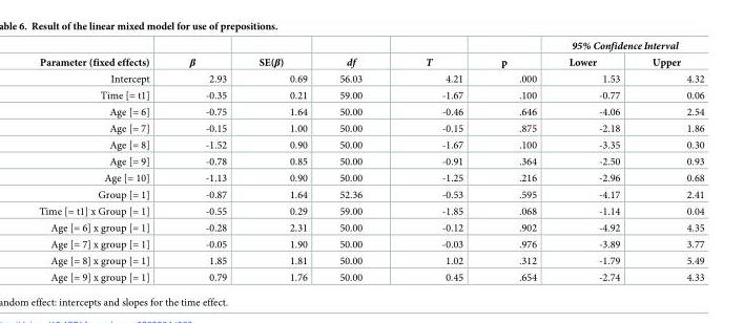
<table><thead><tr><td rowspan="2">Parameter (fixed effects)</td><td rowspan="2">β</td><td rowspan="2">SE(β)</td><td rowspan="2">df</td><td rowspan="2">T</td><td rowspan="2">p</td><td colspan="2">95% Confidence Interval</td></tr><tr><td>Lower</td><td>Upper</td></tr></thead><tbody><tr><td>Intercept</td><td>2.93</td><td>0.69</td><td>56.03</td><td>4.21</td><td>.000</td><td>1.53</td><td>4.32</td></tr><tr><td>Time [= t1]</td><td>-0.35</td><td>0.21</td><td>59.00</td><td>-1.67</td><td>.100</td><td>-0.77</td><td>0.06</td></tr><tr><td>Age [= 6]</td><td>-0.75</td><td>1.64</td><td>50.00</td><td>-0.46</td><td>.646</td><td>-4.06</td><td>2.54</td></tr><tr><td>Age [= 7]</td><td>-0.15</td><td>1.00</td><td>50.00</td><td>-0.15</td><td>.875</td><td>-2.18</td><td>1.86</td></tr><tr><td>Age [= 8]</td><td>-1.52</td><td>0.90</td><td>50.00</td><td>-1.67</td><td>.100</td><td>-3.35</td><td>0.30</td></tr><tr><td>Age [= 9]</td><td>-0.78</td><td>0.85</td><td>50.00</td><td>-0.91</td><td>.364</td><td>-2.50</td><td>0.93</td></tr><tr><td>Age [= 10]</td><td>-1.13</td><td>0.90</td><td>50.00</td><td>-1.25</td><td>.216</td><td>-2.96</td><td>0.68</td></tr><tr><td>Group [= 1]</td><td>-0.87</td><td>1.64</td><td>52.36</td><td>-0.53</td><td>.595</td><td>-4.17</td><td>2.41</td></tr><tr><td>Time [= t1] x Group [= 1]</td><td>-0.55</td><td>0.29</td><td>59.00</td><td>-1.85</td><td>.068</td><td>-1.14</td><td>0.04</td></tr><tr><td>Age [= 6] x group [= 1]</td><td>-0.28</td><td>2.31</td><td>50.00</td><td>-0.12</td><td>.902</td><td>-4.92</td><td>4.35</td></tr><tr><td>Age [= 7] x group [= 1]</td><td>-0.05</td><td>1.90</td><td>50.00</td><td>-0.03</td><td>.976</td><td>-3.89</td><td>3.77</td></tr><tr><td>Age [= 8] x group [= 1]</td><td>1.85</td><td>1.81</td><td>50.00</td><td>1.02</td><td>.312</td><td>-1.79</td><td>5.49</td></tr><tr><td>Age [= 9] x group [= 1]</td><td>0.79</td><td>1.76</td><td>50.00</td><td>0.45</td><td>.654</td><td>-2.74</td><td>4.33</td></tr></tbody></table>